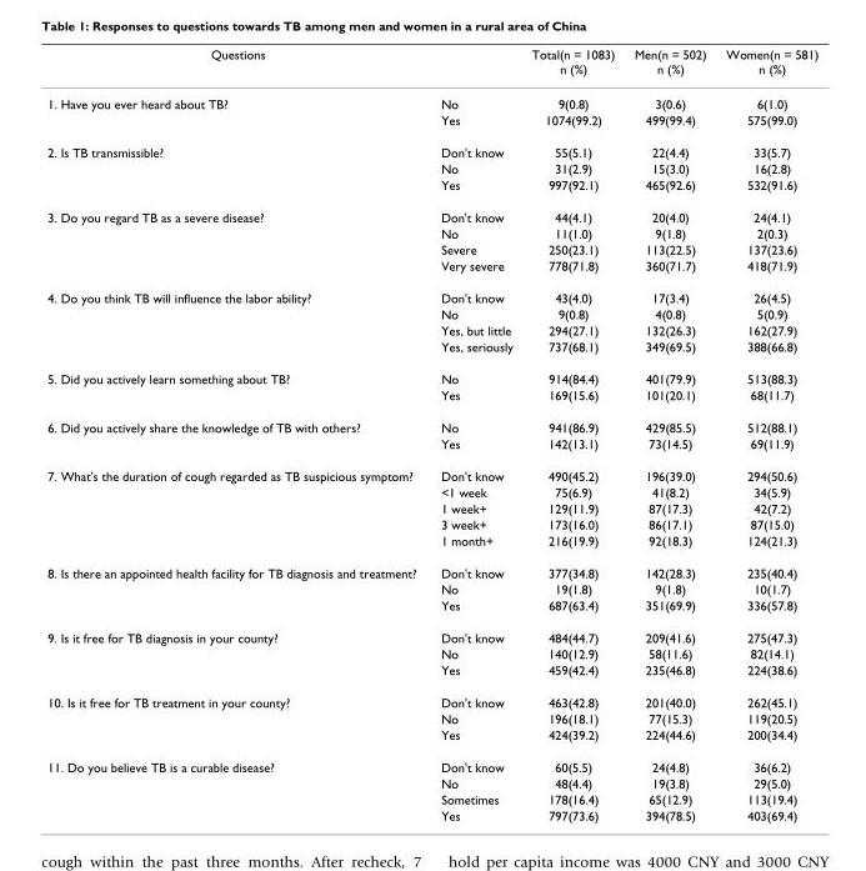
<table><thead><tr><td>Questions</td><td></td><td>Total(n = 1083) n (%)</td><td>Men(n = 502) n (%)</td><td>Women(n = 581) n (%)</td></tr></thead><tbody><tr><td rowspan="2">1. Have you ever heard about TB?</td><td>No</td><td>9(0.8)</td><td>3(0.6)</td><td>6(1.0)</td></tr><tr><td>Yes</td><td>1074(99.2)</td><td>499(99.4)</td><td>575(99.0)</td></tr><tr><td rowspan="3">2. Is TB transmissible?</td><td>Don&#x27;t know</td><td>55(5.1)</td><td>22(4.4)</td><td>33(5.7)</td></tr><tr><td>No</td><td>31(2.9)</td><td>15(3.0)</td><td>16(2.8)</td></tr><tr><td>Yes</td><td>997(92.1)</td><td>465(92.6)</td><td>532(91.6)</td></tr><tr><td rowspan="4">3. Do you regard TB as a severe disease?</td><td>Don&#x27;t know</td><td>44(4.1)</td><td>20(4.0)</td><td>24(4.1)</td></tr><tr><td>No</td><td>11(1.0)</td><td>9(1.8)</td><td>2(0.3)</td></tr><tr><td>Severe</td><td>250(23.1)</td><td>113(22.5)</td><td>137(23.6)</td></tr><tr><td>Very severe</td><td>778(71.8)</td><td>360(71.7)</td><td>418(71.9)</td></tr><tr><td rowspan="4">4. Do you think TB will influence the labor ability?</td><td>Don&#x27;t know</td><td>43(4.0)</td><td>17(3.4)</td><td>26(4.5)</td></tr><tr><td>No</td><td>9(0.8)</td><td>4(0.8)</td><td>5(0.9)</td></tr><tr><td>Yes, but little</td><td>294(27.1)</td><td>132(26.3)</td><td>162(27.9)</td></tr><tr><td>Yes, seriously</td><td>737(68.1)</td><td>349(69.5)</td><td>388(66.8)</td></tr><tr><td rowspan="2">5. Did you actively learn something about TB?</td><td>No</td><td>914(84.4)</td><td>401(79.9)</td><td>513(88.3)</td></tr><tr><td>Yes</td><td>169(15.6)</td><td>101(20.1)</td><td>68(11.7)</td></tr><tr><td rowspan="2">6. Did you actively share the knowledge of TB with others?</td><td>No</td><td>941(86.9)</td><td>429(85.5)</td><td>512(88.1)</td></tr><tr><td>Yes</td><td>142(13.1)</td><td>73(14.5)</td><td>69(11.9)</td></tr><tr><td rowspan="5">7. What&#x27;s the duration of cough regarded as TB suspicious symptom?</td><td>Don&#x27;t know</td><td>490(45.2)</td><td>196(39.0)</td><td>294(50.6)</td></tr><tr><td>&lt;1 week</td><td>75(6.9)</td><td>41(8.2)</td><td>34(5.9)</td></tr><tr><td>1 week+</td><td>129(11.9)</td><td>87(17.3)</td><td>42(7.2)</td></tr><tr><td>3 week+</td><td>173(16.0)</td><td>86(17.1)</td><td>87(15.0)</td></tr><tr><td>1 month+</td><td>216(19.9)</td><td>92(18.3)</td><td>124(21.3)</td></tr><tr><td rowspan="3">8. Is there an appointed health facility for TB diagnosis and treatment?</td><td>Don&#x27;t know</td><td>377(34.8)</td><td>142(28.3)</td><td>235(40.4)</td></tr><tr><td>No</td><td>19(1.8)</td><td>9(1.8)</td><td>10(1.7)</td></tr><tr><td>Yes</td><td>687(63.4)</td><td>351(69.9)</td><td>336(57.8)</td></tr><tr><td rowspan="3">9. Is it free for TB diagnosis in your county?</td><td>Don&#x27;t know</td><td>484(44.7)</td><td>209(41.6)</td><td>275(47.3)</td></tr><tr><td>No</td><td>140(12.9)</td><td>58(11.6)</td><td>82(14.1)</td></tr><tr><td>Yes</td><td>459(42.4)</td><td>235(46.8)</td><td>224(38.6)</td></tr><tr><td rowspan="3">10. Is it free for TB treatment in your county?</td><td>Don&#x27;t know</td><td>463(42.8)</td><td>201(40.0)</td><td>262(45.1)</td></tr><tr><td>No</td><td>196(18.1)</td><td>77(15.3)</td><td>119(20.5)</td></tr><tr><td>Yes</td><td>424(39.2)</td><td>224(44.6)</td><td>200(34.4)</td></tr><tr><td rowspan="4">11. Do you believe TB is a curable disease?</td><td>Don&#x27;t know</td><td>60(5.5)</td><td>24(4.8)</td><td>36(6.2)</td></tr><tr><td>No</td><td>48(4.4)</td><td>19(3.8)</td><td>29(5.0)</td></tr><tr><td>Sometimes</td><td>178(16.4)</td><td>65(12.9)</td><td>113(19.4)</td></tr><tr><td>Yes</td><td>797(73.6)</td><td>394(78.5)</td><td>403(69.4)</td></tr></tbody></table>